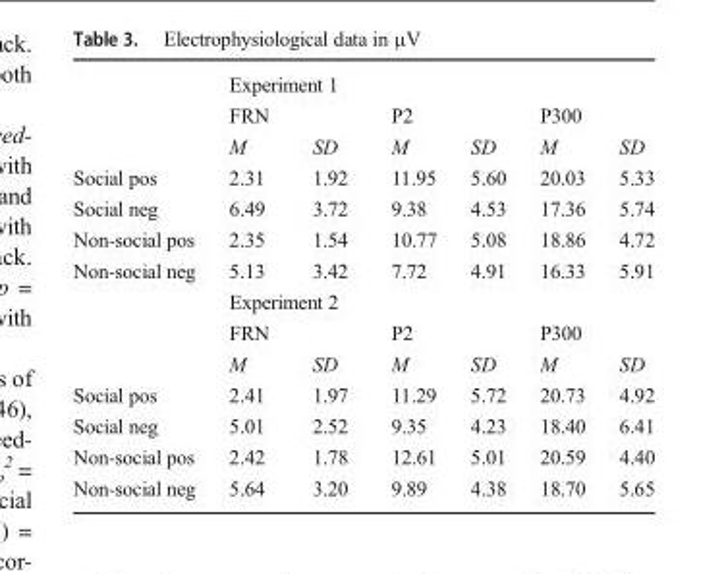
<table><thead><tr><td rowspan="3"></td><td colspan="6">Experiment 1</td></tr><tr><td colspan="2">FRN</td><td colspan="2">P2</td><td colspan="2">P300</td></tr><tr><td>M</td><td>SD</td><td>M</td><td>SD</td><td>M</td><td>SD</td></tr></thead><tbody><tr><td>Social pos</td><td>2.31</td><td>1.92</td><td>11.95</td><td>5.60</td><td>20.03</td><td>5.33</td></tr><tr><td>Social neg</td><td>6.49</td><td>3.72</td><td>9.38</td><td>4.53</td><td>17.36</td><td>5.74</td></tr><tr><td>Non-social pos</td><td>2.35</td><td>1.54</td><td>10.77</td><td>5.08</td><td>18.86</td><td>4.72</td></tr><tr><td rowspan="4">Non-social neg</td><td>5.13</td><td>3.42</td><td>7.72</td><td>4.91</td><td>16.33</td><td>5.91</td></tr><tr><td colspan="2">Experiment 2</td><td></td><td></td><td></td><td></td></tr><tr><td>FRN</td><td></td><td>P2</td><td></td><td>P300</td><td></td></tr><tr><td>M</td><td>SD</td><td>M</td><td>SD</td><td>M</td><td>SD</td></tr><tr><td>Social pos</td><td>2.41</td><td>1.97</td><td>11.29</td><td>5.72</td><td>20.73</td><td>4.92</td></tr><tr><td>Social neg</td><td>5.01</td><td>2.52</td><td>9.35</td><td>4.23</td><td>18.40</td><td>6.41</td></tr><tr><td>Non-social pos</td><td>2.42</td><td>1.78</td><td>12.61</td><td>5.01</td><td>20.59</td><td>4.40</td></tr><tr><td>Non-social neg</td><td>5.64</td><td>3.20</td><td>9.89</td><td>4.38</td><td>18.70</td><td>5.65</td></tr></tbody></table>